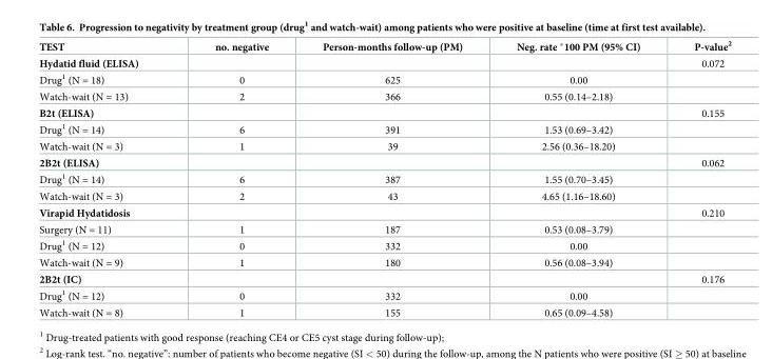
<table><thead><tr><td>TEST</td><td>no. negative</td><td>Person-months follow-up (PM)</td><td>Neg. rate *100 PM (95% CI)</td><td>P-value<sup>2</sup></td></tr></thead><tbody><tr><td>Hydatid fluid (ELISA)</td><td></td><td></td><td></td><td>0.072</td></tr><tr><td>Drug<sup>1</sup> (N = 18)</td><td>0</td><td>625</td><td>0.00</td><td></td></tr><tr><td>Watch-wait (N = 13)</td><td>2</td><td>366</td><td>0.55 (0.14–2.18)</td><td></td></tr><tr><td>B2t (ELISA)</td><td></td><td></td><td></td><td>0.155</td></tr><tr><td>Drug<sup>1</sup> (N = 14)</td><td>6</td><td>391</td><td>1.53 (0.69–3.42)</td><td></td></tr><tr><td>Watch-wait (N = 3)</td><td>1</td><td>39</td><td>2.56 (0.36–18.20)</td><td></td></tr><tr><td>2B2t (ELISA)</td><td></td><td></td><td></td><td>0.062</td></tr><tr><td>Drug<sup>1</sup> (N = 14)</td><td>6</td><td>387</td><td>1.55 (0.70–3.45)</td><td></td></tr><tr><td>Watch-wait (N = 3)</td><td>2</td><td>43</td><td>4.65 (1.16–18.60)</td><td></td></tr><tr><td>Virapid Hydatidosis</td><td></td><td></td><td></td><td>0.210</td></tr><tr><td>Surgery (N = 11)</td><td>1</td><td>187</td><td>0.53 (0.08–3.79)</td><td></td></tr><tr><td>Drug<sup>1</sup> (N = 12)</td><td>0</td><td>332</td><td>0.00</td><td></td></tr><tr><td>Watch-wait (N = 9)</td><td>1</td><td>180</td><td>0.56 (0.08–3.94)</td><td></td></tr><tr><td>2B2t (IC)</td><td></td><td></td><td></td><td>0.176</td></tr><tr><td>Drug<sup>1</sup> (N = 12)</td><td>0</td><td>332</td><td>0.00</td><td></td></tr><tr><td>Watch-wait (N = 8)</td><td>1</td><td>155</td><td>0.65 (0.09–4.58)</td><td></td></tr></tbody></table>